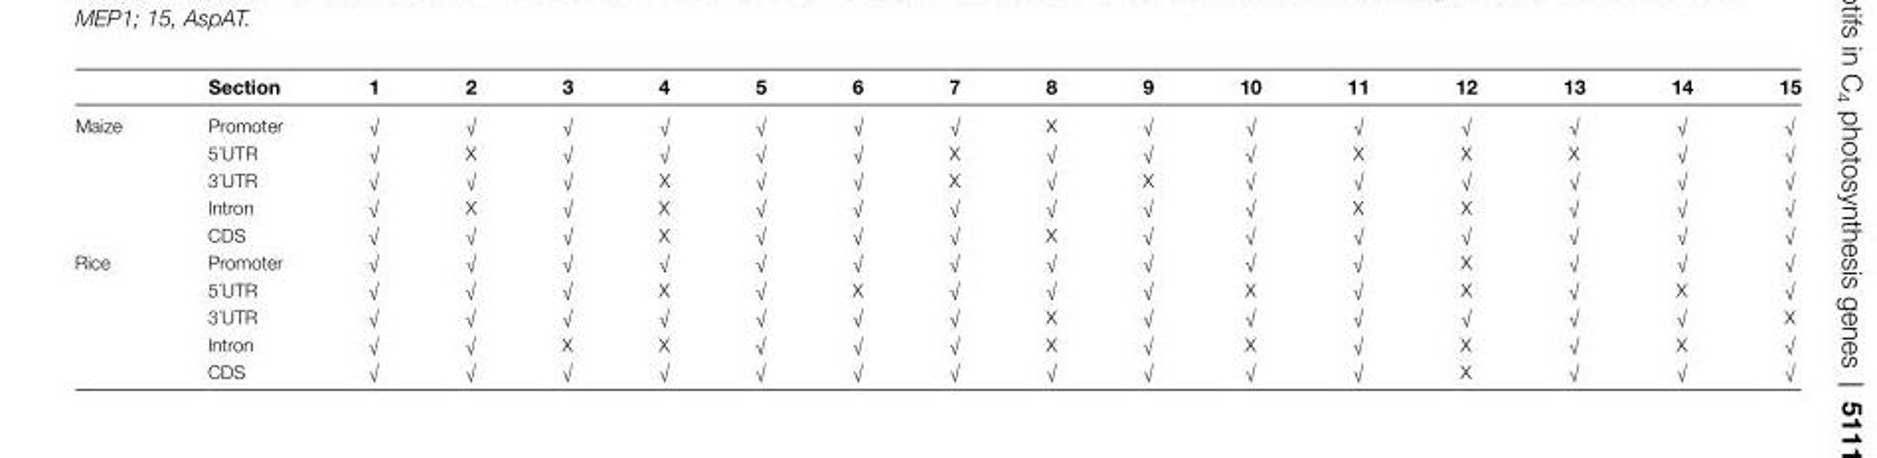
<table><thead><tr><td></td><td>Section</td><td>1</td><td>2</td><td>3</td><td>4</td><td>5</td><td>6</td><td>7</td><td>8</td><td>9</td><td>10</td><td>11</td><td>12</td><td>13</td><td>14</td><td>15</td></tr></thead><tbody><tr><td rowspan="5">Maize</td><td>Promoter</td><td>√</td><td>√</td><td>√</td><td>√</td><td>√</td><td>√</td><td>√</td><td>X</td><td>√</td><td>√</td><td>√</td><td>√</td><td>√</td><td>√</td><td>√</td></tr><tr><td>5´UTR</td><td>√</td><td>X</td><td>√</td><td>√</td><td>√</td><td>√</td><td>X</td><td>√</td><td>√</td><td>√</td><td>X</td><td>X</td><td>X</td><td>√</td><td>√</td></tr><tr><td>3´UTR</td><td>√</td><td>√</td><td>√</td><td>X</td><td>√</td><td>√</td><td>X</td><td>√</td><td>X</td><td>√</td><td>√</td><td>√</td><td>√</td><td>√</td><td>√</td></tr><tr><td>Intron</td><td>√</td><td>X</td><td>√</td><td>X</td><td>√</td><td>√</td><td>√</td><td>√</td><td>√</td><td>√</td><td>X</td><td>X</td><td>√</td><td>√</td><td>√</td></tr><tr><td>CDS</td><td>√</td><td>√</td><td>√</td><td>X</td><td>√</td><td>√</td><td>√</td><td>X</td><td>√</td><td>√</td><td>√</td><td>√</td><td>√</td><td>√</td><td>√</td></tr><tr><td rowspan="5">Rice</td><td>Promoter</td><td>√</td><td>√</td><td>√</td><td>√</td><td>√</td><td>√</td><td>√</td><td>√</td><td>√</td><td>√</td><td>√</td><td>X</td><td>√</td><td>√</td><td>√</td></tr><tr><td>5´UTR</td><td>√</td><td>√</td><td>√</td><td>X</td><td>√</td><td>X</td><td>√</td><td>√</td><td>√</td><td>X</td><td>√</td><td>X</td><td>√</td><td>X</td><td>√</td></tr><tr><td>3´UTR</td><td>√</td><td>√</td><td>√</td><td>√</td><td>√</td><td>√</td><td>√</td><td>X</td><td>√</td><td>√</td><td>√</td><td>√</td><td>√</td><td>√</td><td>X</td></tr><tr><td>Intron</td><td>√</td><td>√</td><td>X</td><td>X</td><td>√</td><td>√</td><td>√</td><td>X</td><td>√</td><td>X</td><td>√</td><td>X</td><td>√</td><td>X</td><td>√</td></tr><tr><td>CDS</td><td>√</td><td>√</td><td>√</td><td>√</td><td>√</td><td>√</td><td>√</td><td>√</td><td>√</td><td>√</td><td>√</td><td>X</td><td>√</td><td>√</td><td>√</td></tr></tbody></table>